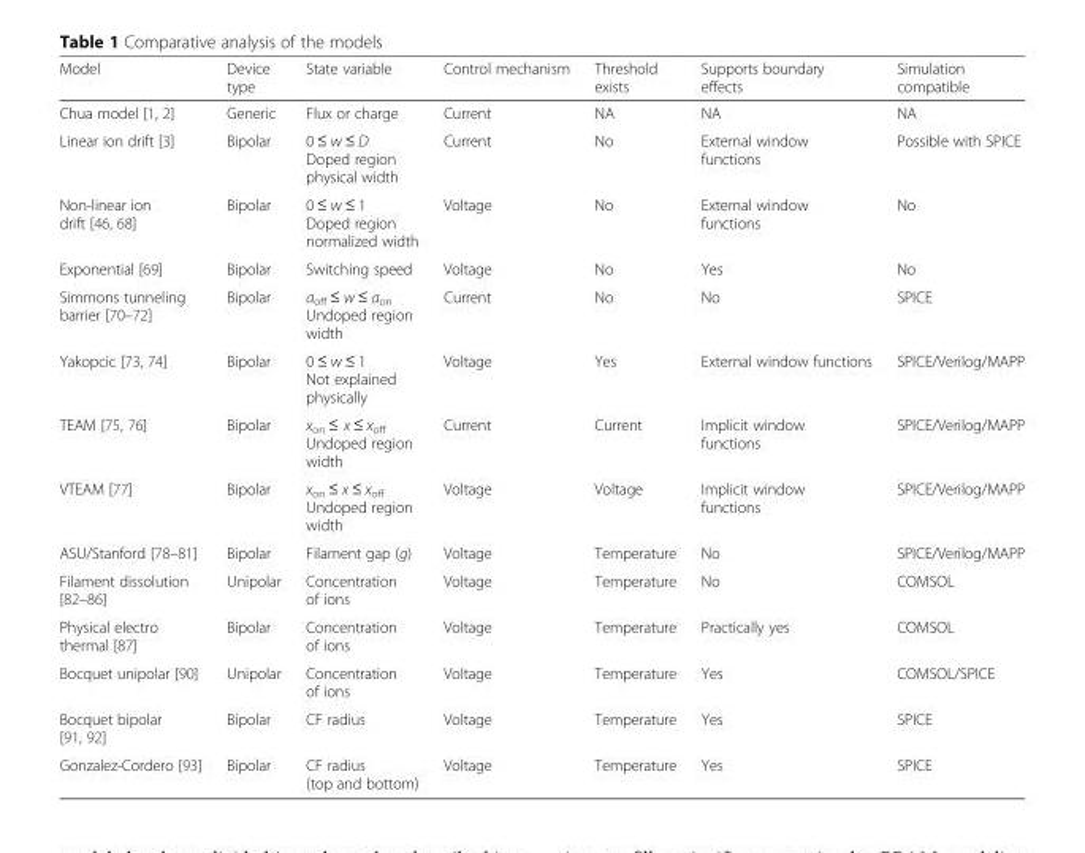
<table><thead><tr><td>Model</td><td>Device type</td><td>State variable</td><td>Control mechanism</td><td>Threshold exists</td><td>Supports boundary effects</td><td>Simulation compatible</td></tr></thead><tbody><tr><td>Chua model [1, 2]</td><td>Generic</td><td>Flux or charge</td><td>Current</td><td>NA</td><td>NA</td><td>NA</td></tr><tr><td>Linear ion drift [3]</td><td>Bipolar</td><td>0 ≤ w ≤ D Doped region physical width</td><td>Current</td><td>No</td><td>External window functions</td><td>Possible with SPICE</td></tr><tr><td>Non-linear ion drift [46, 68]</td><td>Bipolar</td><td>0 ≤ w ≤ 1 Doped region normalized width</td><td>Voltage</td><td>No</td><td>External window functions</td><td>No</td></tr><tr><td>Exponential [69]</td><td>Bipolar</td><td>Switching speed</td><td>Voltage</td><td>No</td><td>Yes</td><td>No</td></tr><tr><td>Simmons tunneling barrier [70–72]</td><td>Bipolar</td><td>a<sub>off</sub> ≤ w ≤ a<sub>on</sub> Undoped region width</td><td>Current</td><td>No</td><td>No</td><td>SPICE</td></tr><tr><td>Yakopcic [73, 74]</td><td>Bipolar</td><td>0 ≤ w ≤ 1 Not explained physically</td><td>Voltage</td><td>Yes</td><td>External window functions</td><td>SPICE/Verilog/MAPP</td></tr><tr><td>TEAM [75, 76]</td><td>Bipolar</td><td>x<sub>on</sub> ≤ x ≤ x<sub>off</sub> Undoped region width</td><td>Current</td><td>Current</td><td>Implicit window functions</td><td>SPICE/Verilog/MAPP</td></tr><tr><td>VTEAM [77]</td><td>Bipolar</td><td>x<sub>on</sub> ≤ x ≤ x<sub>off</sub> Undoped region width</td><td>Voltage</td><td>Voltage</td><td>Implicit window functions</td><td>SPICE/Verilog/MAPP</td></tr><tr><td>ASU/Stanford [78–81]</td><td>Bipolar</td><td>Filament gap (g)</td><td>Voltage</td><td>Temperature</td><td>No</td><td>SPICE/Verilog/MAPP</td></tr><tr><td>Filament dissolution [82–86]</td><td>Unipolar</td><td>Concentration of ions</td><td>Voltage</td><td>Temperature</td><td>No</td><td>COMSOL</td></tr><tr><td>Physical electro thermal [87]</td><td>Bipolar</td><td>Concentration of ions</td><td>Voltage</td><td>Temperature</td><td>Practically yes</td><td>COMSOL</td></tr><tr><td>Bocquet unipolar [90]</td><td>Unipolar</td><td>Concentration of ions</td><td>Voltage</td><td>Temperature</td><td>Yes</td><td>COMSOL/SPICE</td></tr><tr><td>Bocquet bipolar [91, 92]</td><td>Bipolar</td><td>CF radius</td><td>Voltage</td><td>Temperature</td><td>Yes</td><td>SPICE</td></tr><tr><td>Gonzalez-Cordero [93]</td><td>Bipolar</td><td>CF radius (top and bottom)</td><td>Voltage</td><td>Temperature</td><td>Yes</td><td>SPICE</td></tr></tbody></table>